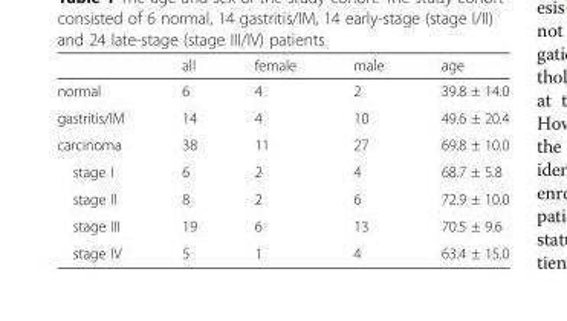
<table><thead><tr><td></td><td>all</td><td>female</td><td>male</td><td>age</td></tr></thead><tbody><tr><td>normal</td><td>6</td><td>4</td><td>2</td><td>39.8 ± 14.0</td></tr><tr><td>gastritis/IM</td><td>14</td><td>4</td><td>10</td><td>49.6 ± 20.4</td></tr><tr><td>carcinoma</td><td>38</td><td>11</td><td>27</td><td>69.8 ± 10.0</td></tr><tr><td>stage I</td><td>6</td><td>2</td><td>4</td><td>68.7 ± 5.8</td></tr><tr><td>stage II</td><td>8</td><td>2</td><td>6</td><td>72.9 ± 10.0</td></tr><tr><td>stage III</td><td>19</td><td>6</td><td>13</td><td>70.5 ± 9.6</td></tr><tr><td>stage IV</td><td>5</td><td>1</td><td>4</td><td>63.4 ± 15.0</td></tr></tbody></table>